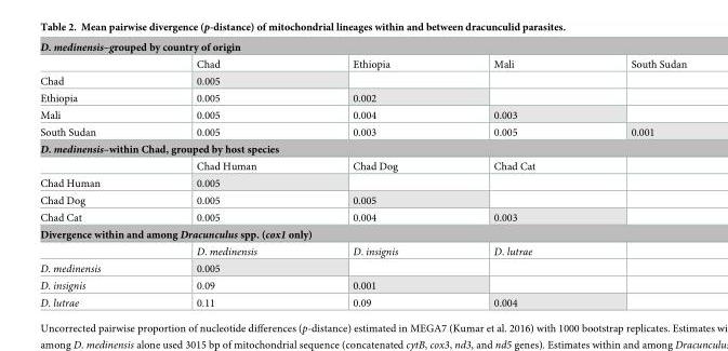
<table><tbody><tr><td colspan="5">D. medinensis–grouped by country of origin</td></tr><tr><td></td><td>Chad</td><td>Ethiopia</td><td>Mali</td><td>South Sudan</td></tr><tr><td>Chad</td><td>0.005</td><td></td><td></td><td></td></tr><tr><td>Ethiopia</td><td>0.005</td><td>0.002</td><td></td><td></td></tr><tr><td>Mali</td><td>0.005</td><td>0.004</td><td>0.003</td><td></td></tr><tr><td>South Sudan</td><td>0.005</td><td>0.003</td><td>0.005</td><td>0.001</td></tr><tr><td colspan="5">D. medinensis–within Chad, grouped by host species</td></tr><tr><td></td><td>Chad Human</td><td>Chad Dog</td><td>Chad Cat</td><td></td></tr><tr><td>Chad Human</td><td>0.005</td><td></td><td></td><td></td></tr><tr><td>Chad Dog</td><td>0.005</td><td>0.005</td><td></td><td></td></tr><tr><td>Chad Cat</td><td>0.005</td><td>0.004</td><td>0.003</td><td></td></tr><tr><td colspan="5">Divergence within and among Dracunculus spp. (cox1 only)</td></tr><tr><td></td><td>D. medinensis</td><td>D. insignis</td><td>D. lutrae</td><td></td></tr><tr><td>D. medinensis</td><td>0.005</td><td></td><td></td><td></td></tr><tr><td>D. insignis</td><td>0.09</td><td>0.001</td><td></td><td></td></tr><tr><td>D. lutrae</td><td>0.11</td><td>0.09</td><td>0.004</td><td></td></tr></tbody></table>